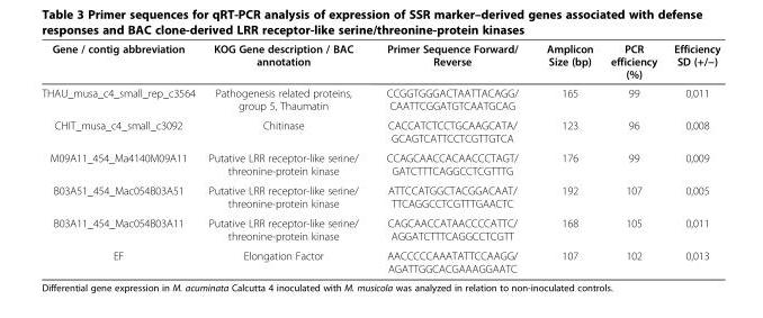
<table><thead><tr><td>Gene / contig abbreviation</td><td>KOG Gene description / BAC annotation</td><td>Primer Sequence Forward/ Reverse</td><td>Amplicon Size (bp)</td><td>PCR efficiency (%)</td><td>Efficiency SD (+/−)</td></tr></thead><tbody><tr><td>THAU_musa_c4_small_rep_c3564</td><td>Pathogenesis related proteins, group 5, Thaumatin</td><td>CCGGTGGGACTAATTACAGG/ CAATTCGGATGTCAATGCAG</td><td>165</td><td>99</td><td>0,011</td></tr><tr><td>CHIT_musa_c4_small_c3092</td><td>Chitinase</td><td>CACCATCTCCTGCAAGCATA/ GCAGTCATTCCTCGTTGTCA</td><td>123</td><td>96</td><td>0,008</td></tr><tr><td>M09A11_454_Ma4140M09A11</td><td>Putative LRR receptor-like serine/ threonine-protein kinase</td><td>CCAGCAACCACAACCCTAGT/ GATCTTTCAGGCCTCGTTTG</td><td>176</td><td>99</td><td>0,009</td></tr><tr><td>B03A51_454_Mac054B03A51</td><td>Putative LRR receptor-like serine/ threonine-protein kinase</td><td>ATTCCATGGCTACGGACAAT/ TTCAGGCCTCGTTTGAACTC</td><td>192</td><td>107</td><td>0,005</td></tr><tr><td>B03A11_454_Mac054B03A11</td><td>Putative LRR receptor-like serine/ threonine-protein kinase</td><td>CAGCAACCATAACCCCATTC/ AGGATCTTTCAGGCCTCGTT</td><td>168</td><td>105</td><td>0,011</td></tr><tr><td>EF</td><td>Elongation Factor</td><td>AACCCCCAAATATTCCAAGG/ AGATTGGCACGAAAGGAATC</td><td>107</td><td>102</td><td>0,013</td></tr></tbody></table>